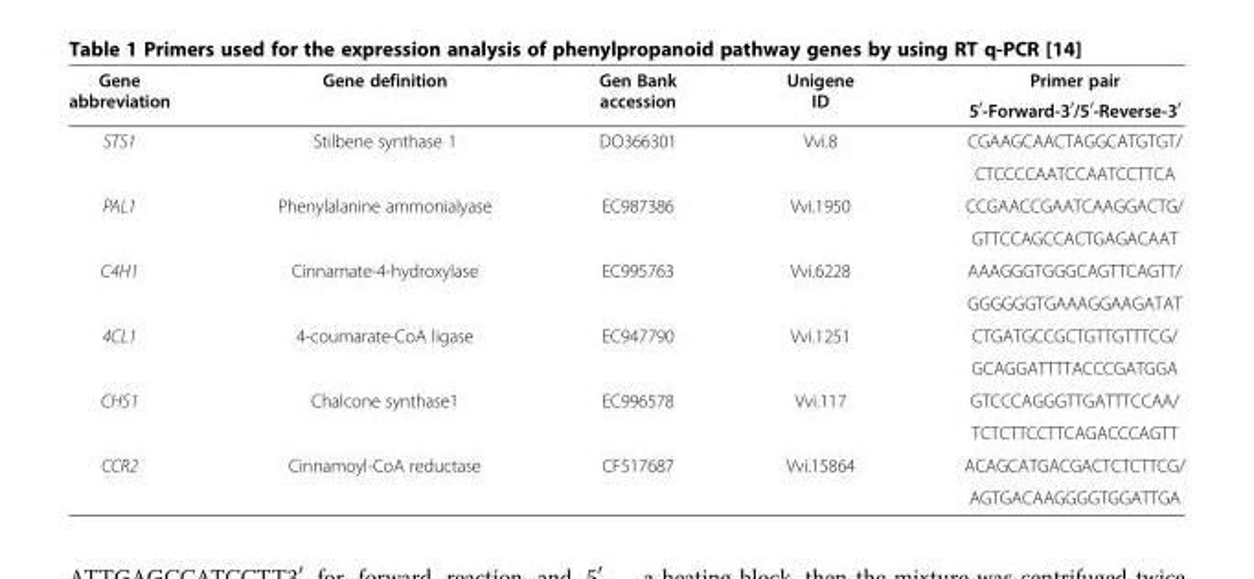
<table><thead><tr><td rowspan="2">Gene abbreviation</td><td rowspan="2">Gene definition</td><td rowspan="2">Gen Bank accession</td><td rowspan="2">Unigene ID</td><td rowspan="2">Primer pair 5<sup>′</sup>-Forward-3<sup>′</sup>/5<sup>′</sup>-Reverse-3<sup>′</sup></td></tr><tr></tr></thead><tbody><tr><td rowspan="2">STS1</td><td rowspan="2">Stilbene synthase 1</td><td rowspan="2">DO366301</td><td rowspan="2">Vvi.8</td><td>CGAAGCAACTAGGCATGTGT/</td></tr><tr><td>CTCCCCAATCCAATCCTTCA</td></tr><tr><td rowspan="2">PAL1</td><td rowspan="2">Phenylalanine ammonialyase</td><td rowspan="2">EC987386</td><td rowspan="2">Vvi.1950</td><td>CCGAACCGAATCAAGGACTG/</td></tr><tr><td>GTTCCAGCCACTGAGACAAT</td></tr><tr><td rowspan="2">C4H1</td><td rowspan="2">Cinnamate-4-hydroxylase</td><td rowspan="2">EC995763</td><td rowspan="2">Vvi.6228</td><td>AAAGGGTGGGCAGTTCAGTT/</td></tr><tr><td>GGGGGGTGAAAGGAAGATAT</td></tr><tr><td rowspan="2">4CL1</td><td rowspan="2">4-coumarate-CoA ligase</td><td rowspan="2">EC947790</td><td rowspan="2">Vvi.1251</td><td>CTGATGCCGCTGTTGTTTCG/</td></tr><tr><td>GCAGGATTTTACCCGATGGA</td></tr><tr><td rowspan="2">CHS1</td><td rowspan="2">Chalcone synthase1</td><td rowspan="2">EC996578</td><td rowspan="2">Vvi.117</td><td>GTCCCAGGGTTGATTTCCAA/</td></tr><tr><td>TCTCTTCCTTCAGACCCAGTT</td></tr><tr><td rowspan="2">CCR2</td><td rowspan="2">Cinnamoyl-CoA reductase</td><td rowspan="2">CF517687</td><td rowspan="2">Vvi.15864</td><td>ACAGCATGACGACTCTCTTCG/</td></tr><tr><td>AGTGACAAGGGGTGGATTGA</td></tr></tbody></table>